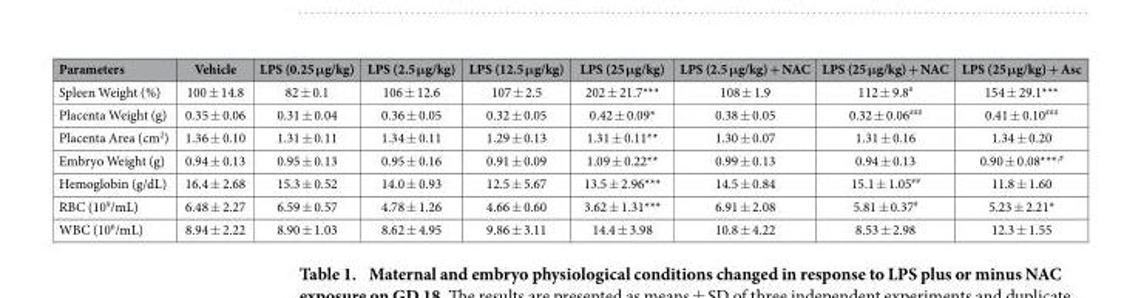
<table><thead><tr><td>Parameters</td><td>Vehicle</td><td>LPS (0.25 μg/kg)</td><td>LPS (2.5 μg/kg)</td><td>LPS (12.5 μg/kg)</td><td>LPS (25 μg/kg)</td><td>LPS (2.5 μg/kg) + NAC</td><td>LPS (25 μg/kg) + NAC</td><td>LPS (25 μg/kg) + Asc</td></tr></thead><tbody><tr><td>Spleen Weight (%)</td><td>100 ± 14.8</td><td>82 ± 0.1</td><td>106 ± 12.6</td><td>107 ± 2.5</td><td>202 ± 21.7***</td><td>108 ± 1.9</td><td>112 ± 9.8<sup>#</sup></td><td>154 ± 29.1***</td></tr><tr><td>Placenta Weight (g)</td><td>0.35 ± 0.06</td><td>0.31 ± 0.04</td><td>0.36 ± 0.05</td><td>0.32 ± 0.05</td><td>0.42 ± 0.09*</td><td>0.38 ± 0.05</td><td>0.32 ± 0.06<sup>###</sup></td><td>0.41 ± 0.10<sup>###</sup></td></tr><tr><td>Placenta Area (cm<sup>2</sup>)</td><td>1.36 ± 0.10</td><td>1.31 ± 0.11</td><td>1.34 ± 0.11</td><td>1.29 ± 0.13</td><td>1.31 ± 0.11**</td><td>1.30 ± 0.07</td><td>1.31 ± 0.16</td><td>1.34 ± 0.20</td></tr><tr><td>Embryo Weight (g)</td><td>0.94 ± 0.13</td><td>0.95 ± 0.13</td><td>0.95 ± 0.16</td><td>0.91 ± 0.09</td><td>1.09 ± 0.22**</td><td>0.99 ± 0.13</td><td>0.94 ± 0.13</td><td>0.90 ± 0.08***<sup>,#</sup></td></tr><tr><td>Hemoglobin (g/dL)</td><td>16.4 ± 2.68</td><td>15.3 ± 0.52</td><td>14.0 ± 0.93</td><td>12.5 ± 5.67</td><td>13.5 ± 2.96***</td><td>14.5 ± 0.84</td><td>15.1 ± 1.05<sup>##</sup></td><td>11.8 ± 1.60</td></tr><tr><td>RBC (10<sup>9</sup>/mL)</td><td>6.48 ± 2.27</td><td>6.59 ± 0.57</td><td>4.78 ± 1.26</td><td>4.66 ± 0.60</td><td>3.62 ± 1.31***</td><td>6.91 ± 2.08</td><td>5.81 ± 0.37<sup>#</sup></td><td>5.23 ± 2.21*</td></tr><tr><td>WBC (10<sup>6</sup>/mL)</td><td>8.94 ± 2.22</td><td>8.90 ± 1.03</td><td>8.62 ± 4.95</td><td>9.86 ± 3.11</td><td>14.4 ± 3.98</td><td>10.8 ± 4.22</td><td>8.53 ± 2.98</td><td>12.3 ± 1.55</td></tr></tbody></table>